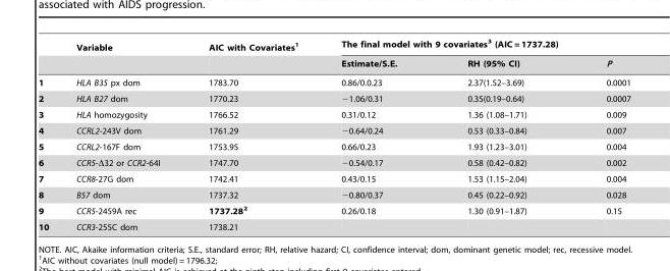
<table><thead><tr><td rowspan="2"></td><td rowspan="2">Variable</td><td rowspan="2">AIC with Covariates<sup>1</sup></td><td colspan="3">The final model with 9 covariates<sup>3</sup> (AIC = 1737.28)</td></tr><tr><td>Estimate/S.E.</td><td>RH (95% CI)</td><td>P</td></tr></thead><tbody><tr><td>1</td><td>HLA B35 px dom</td><td>1783.70</td><td>0.86/0.0.23</td><td>2.37(1.52–3.69)</td><td>0.0001</td></tr><tr><td>2</td><td>HLA B27 dom</td><td>1770.23</td><td>−1.06/0.31</td><td>0.35(0.19–0.64)</td><td>0.0007</td></tr><tr><td>3</td><td>HLA homozygosity</td><td>1766.52</td><td>0.31/0.12</td><td>1.36 (1.08–1.71)</td><td>0.009</td></tr><tr><td>4</td><td>CCRL2-243V dom</td><td>1761.29</td><td>−0.64/0.24</td><td>0.53 (0.33–0.84)</td><td>0.007</td></tr><tr><td>5</td><td>CCRL2-167F dom</td><td>1753.95</td><td>0.66/0.23</td><td>1.93 (1.23–3.01)</td><td>0.004</td></tr><tr><td>6</td><td>CCR5-Δ32 or CCR2-64I</td><td>1747.70</td><td>−0.54/0.17</td><td>0.58 (0.42–0.82)</td><td>0.002</td></tr><tr><td>7</td><td>CCR8-27G dom</td><td>1742.41</td><td>0.43/0.15</td><td>1.53 (1.15–2.04)</td><td>0.004</td></tr><tr><td>8</td><td>B57 dom</td><td>1737.32</td><td>−0.80/0.37</td><td>0.45 (0.22–0.92)</td><td>0.028</td></tr><tr><td>9</td><td>CCR5-2459A rec</td><td>1737.282</td><td>0.26/0.18</td><td>1.30 (0.91–1.87)</td><td>0.15</td></tr><tr><td>10</td><td>CCR3-255C dom</td><td>1738.21</td><td></td><td></td><td></td></tr></tbody></table>